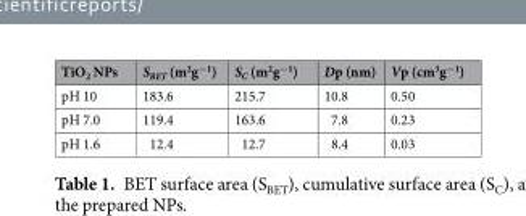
<table><thead><tr><td>TiO<sub>2</sub> NPs</td><td>S<sub>BET</sub> (m<sup>2</sup>g<sup>−1</sup>)</td><td>S<sub>C</sub> (m<sup>2</sup>g<sup>−1</sup>)</td><td>Dp (nm)</td><td>Vp (cm<sup>3</sup>g<sup>−1</sup>)</td></tr></thead><tbody><tr><td>pH 10</td><td>183.6</td><td>215.7</td><td>10.8</td><td>0.50</td></tr><tr><td>pH 7.0</td><td>119.4</td><td>163.6</td><td>7.8</td><td>0.23</td></tr><tr><td>pH 1.6</td><td>12.4</td><td>12.7</td><td>8.4</td><td>0.03</td></tr></tbody></table>